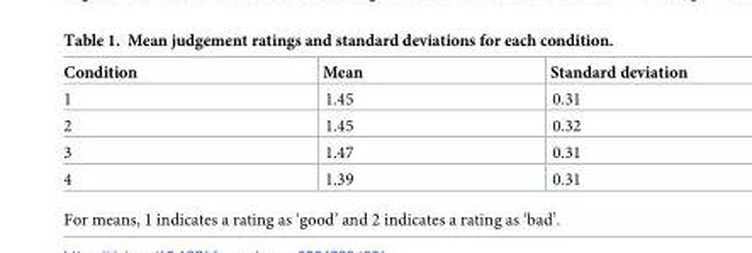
<table><thead><tr><td>Condition</td><td>Mean</td><td>Standard deviation</td></tr></thead><tbody><tr><td>1</td><td>1.45</td><td>0.31</td></tr><tr><td>2</td><td>1.45</td><td>0.32</td></tr><tr><td>3</td><td>1.47</td><td>0.31</td></tr><tr><td>4</td><td>1.39</td><td>0.31</td></tr></tbody></table>